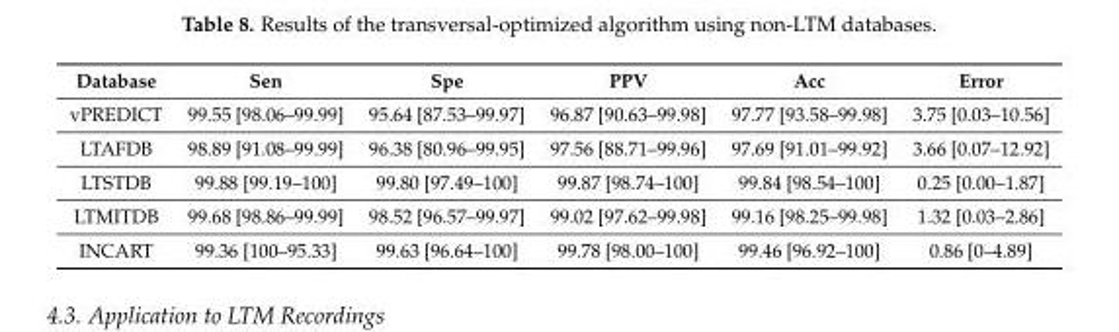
<table><thead><tr><td>Database</td><td>Sen</td><td>Spe</td><td>PPV</td><td>Acc</td><td>Error</td></tr></thead><tbody><tr><td>vPREDICT</td><td>99.55 [98.06–99.99]</td><td>95.64 [87.53–99.97]</td><td>96.87 [90.63–99.98]</td><td>97.77 [93.58–99.98]</td><td>3.75 [0.03–10.56]</td></tr><tr><td>LTAFDB</td><td>98.89 [91.08–99.99]</td><td>96.38 [80.96–99.95]</td><td>97.56 [88.71–99.96]</td><td>97.69 [91.01–99.92]</td><td>3.66 [0.07–12.92]</td></tr><tr><td>LTSTDB</td><td>99.88 [99.19–100]</td><td>99.80 [97.49–100]</td><td>99.87 [98.74–100]</td><td>99.84 [98.54–100]</td><td>0.25 [0.00–1.87]</td></tr><tr><td>LTMITDB</td><td>99.68 [98.86–99.99]</td><td>98.52 [96.57–99.97]</td><td>99.02 [97.62–99.98]</td><td>99.16 [98.25–99.98]</td><td>1.32 [0.03–2.86]</td></tr><tr><td>INCART</td><td>99.36 [100–95.33]</td><td>99.63 [96.64–100]</td><td>99.78 [98.00–100]</td><td>99.46 [96.92–100]</td><td>0.86 [0–4.89]</td></tr></tbody></table>